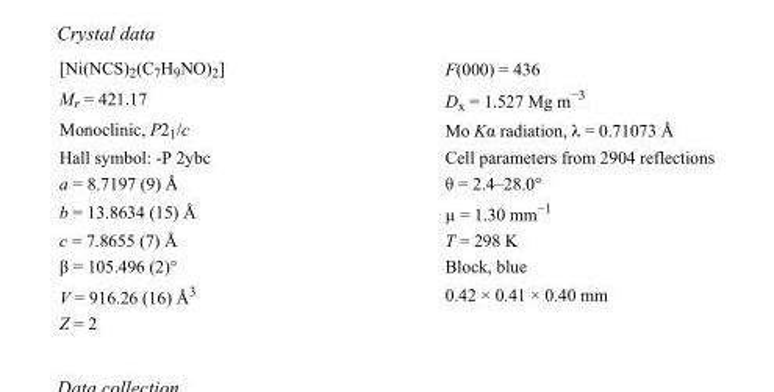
<table><tbody><tr><td>[Ni(NCS)<sub>2</sub>(C<sub>7</sub>H<sub>9</sub>NO)<sub>2</sub>]</td><td>F(000) = 436</td></tr><tr><td>M<sub>r</sub> = 421.17</td><td>D<sub>x</sub> = 1.527 Mg m<sup>−3</sup></td></tr><tr><td>Monoclinic, P2<sub>1</sub>/c</td><td>Mo Kα radiation, λ = 0.71073 Å</td></tr><tr><td>Hall symbol: -P 2ybc</td><td>Cell parameters from 2904 reflections</td></tr><tr><td>a = 8.7197 (9) Å</td><td>θ = 2.4–28.0°</td></tr><tr><td>b = 13.8634 (15) Å</td><td>µ = 1.30 mm<sup>−1</sup></td></tr><tr><td>c = 7.8655 (7) Å</td><td>T = 298 K</td></tr><tr><td>β = 105.496 (2)°</td><td>Block, blue</td></tr><tr><td>V = 916.26 (16) Å<sup>3</sup></td><td>0.42 × 0.41 × 0.40 mm</td></tr><tr><td>Z = 2</td><td></td></tr></tbody></table>